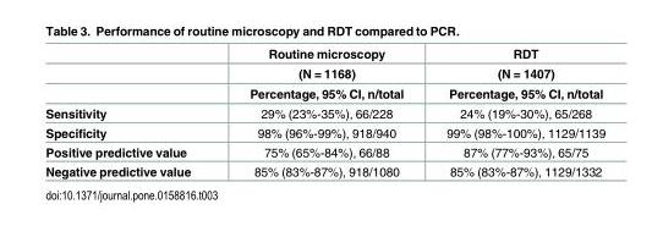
<table><thead><tr><td rowspan="3"></td><td rowspan="3">Routine microscopy (N = 1168) Percentage, 95% CI, n/total</td><td rowspan="3">RDT (N = 1407) Percentage, 95% CI, n/total</td></tr><tr></tr><tr></tr></thead><tbody><tr><td>Sensitivity</td><td>29% (23%-35%), 66/228</td><td>24% (19%-30%), 65/268</td></tr><tr><td>Specificity</td><td>98% (96%-99%), 918/940</td><td>99% (98%-100%), 1129/1139</td></tr><tr><td>Positive predictive value</td><td>75% (65%-84%), 66/88</td><td>87% (77%-93%), 65/75</td></tr><tr><td>Negative predictive value</td><td>85% (83%-87%), 918/1080</td><td>85% (83%-87%), 1129/1332</td></tr></tbody></table>